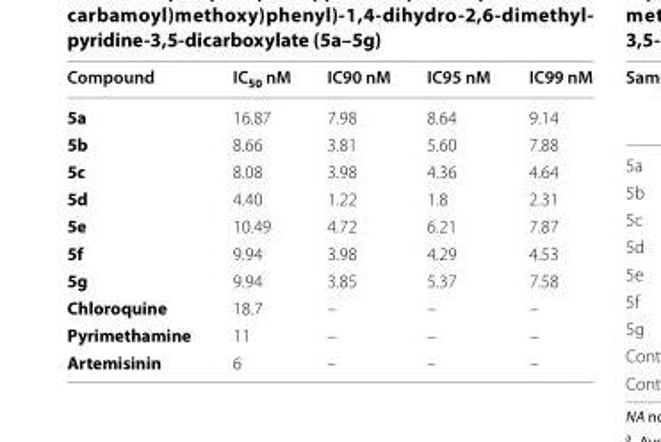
<table><thead><tr><td>Compound</td><td>IC<sub>50</sub> nM</td><td>IC90 nM</td><td>IC95 nM</td><td>IC99 nM</td></tr></thead><tbody><tr><td>5a</td><td>16.87</td><td>7.98</td><td>8.64</td><td>9.14</td></tr><tr><td>5b</td><td>8.66</td><td>3.81</td><td>5.60</td><td>7.88</td></tr><tr><td>5c</td><td>8.08</td><td>3.98</td><td>4.36</td><td>4.64</td></tr><tr><td>5d</td><td>4.40</td><td>1.22</td><td>1.8</td><td>2.31</td></tr><tr><td>5e</td><td>10.49</td><td>4.72</td><td>6.21</td><td>7.87</td></tr><tr><td>5f</td><td>9.94</td><td>3.98</td><td>4.29</td><td>4.53</td></tr><tr><td>5g</td><td>9.94</td><td>3.85</td><td>5.37</td><td>7.58</td></tr><tr><td>Chloroquine</td><td>18.7</td><td>–</td><td>–</td><td>–</td></tr><tr><td>Pyrimethamine</td><td>11</td><td>–</td><td>–</td><td>–</td></tr><tr><td>Artemisinin</td><td>6</td><td>–</td><td>–</td><td>–</td></tr></tbody></table>